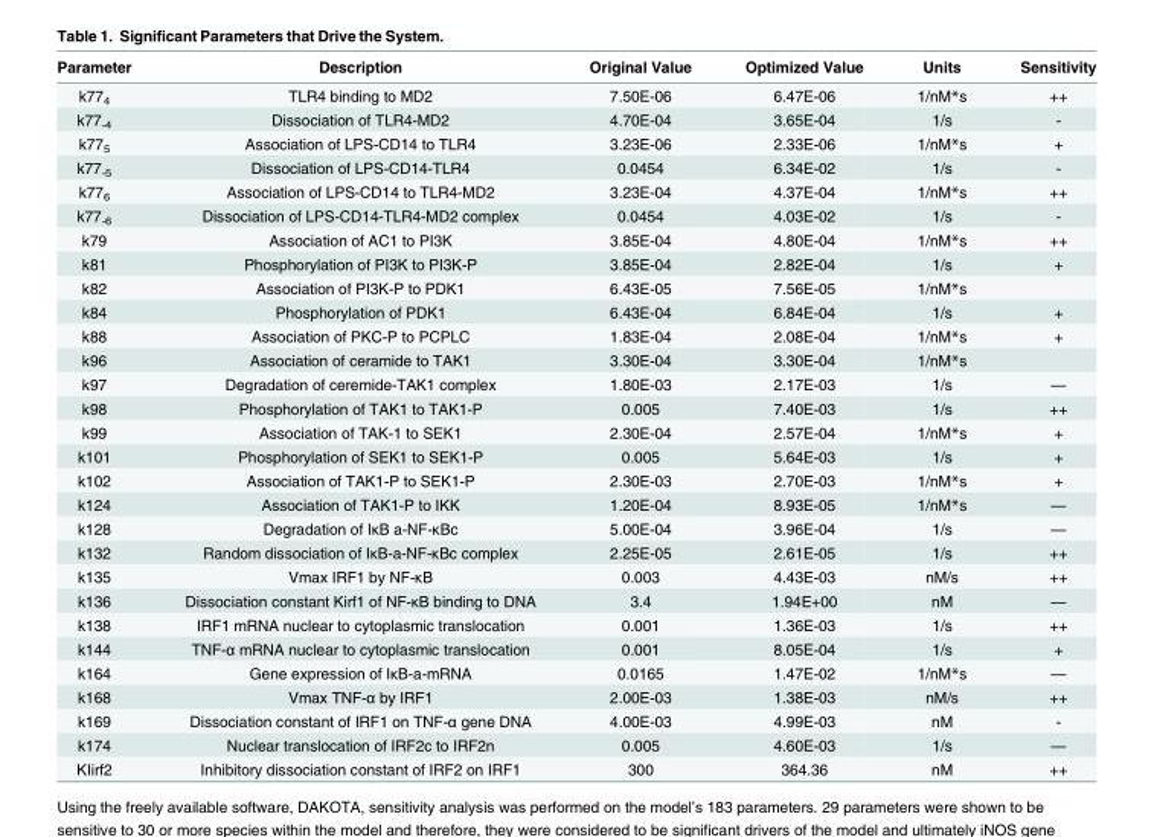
<table><thead><tr><td>Parameter</td><td>Description</td><td>Original Value</td><td>Optimized Value</td><td>Units</td><td>Sensitivity</td></tr></thead><tbody><tr><td>k77<sub>4</sub></td><td>TLR4 binding to MD2</td><td>7.50E-06</td><td>6.47E-06</td><td>1/nM*s</td><td>++</td></tr><tr><td>k77<sub>-4</sub></td><td>Dissociation of TLR4-MD2</td><td>4.70E-04</td><td>3.65E-04</td><td>1/s</td><td>-</td></tr><tr><td>k77<sub>5</sub></td><td>Association of LPS-CD14 to TLR4</td><td>3.23E-06</td><td>2.33E-06</td><td>1/nM*s</td><td>+</td></tr><tr><td>k77<sub>-5</sub></td><td>Dissociation of LPS-CD14-TLR4</td><td>0.0454</td><td>6.34E-02</td><td>1/s</td><td>-</td></tr><tr><td>k77<sub>6</sub></td><td>Association of LPS-CD14 to TLR4-MD2</td><td>3.23E-04</td><td>4.37E-04</td><td>1/nM*s</td><td>++</td></tr><tr><td>k77<sub>-6</sub></td><td>Dissociation of LPS-CD14-TLR4-MD2 complex</td><td>0.0454</td><td>4.03E-02</td><td>1/s</td><td>-</td></tr><tr><td>k79</td><td>Association of AC1 to PI3K</td><td>3.85E-04</td><td>4.80E-04</td><td>1/nM*s</td><td>++</td></tr><tr><td>k81</td><td>Phosphorylation of PI3K to PI3K-P</td><td>3.85E-04</td><td>2.82E-04</td><td>1/s</td><td>+</td></tr><tr><td>k82</td><td>Association of PI3K-P to PDK1</td><td>6.43E-05</td><td>7.56E-05</td><td>1/nM*s</td><td></td></tr><tr><td>k84</td><td>Phosphorylation of PDK1</td><td>6.43E-04</td><td>6.84E-04</td><td>1/s</td><td>+</td></tr><tr><td>k88</td><td>Association of PKC-P to PCPLC</td><td>1.83E-04</td><td>2.08E-04</td><td>1/nM*s</td><td>+</td></tr><tr><td>k96</td><td>Association of ceramide to TAK1</td><td>3.30E-04</td><td>3.30E-04</td><td>1/nM*s</td><td></td></tr><tr><td>k97</td><td>Degradation of ceremide-TAK1 complex</td><td>1.80E-03</td><td>2.17E-03</td><td>1/s</td><td>—</td></tr><tr><td>k98</td><td>Phosphorylation of TAK1 to TAK1-P</td><td>0.005</td><td>7.40E-03</td><td>1/s</td><td>++</td></tr><tr><td>k99</td><td>Association of TAK-1 to SEK1</td><td>2.30E-04</td><td>2.57E-04</td><td>1/nM*s</td><td>+</td></tr><tr><td>k101</td><td>Phosphorylation of SEK1 to SEK1-P</td><td>0.005</td><td>5.64E-03</td><td>1/s</td><td>+</td></tr><tr><td>k102</td><td>Association of TAK1-P to SEK1-P</td><td>2.30E-03</td><td>2.70E-03</td><td>1/nM*s</td><td>+</td></tr><tr><td>k124</td><td>Association of TAK1-P to IKK</td><td>1.20E-04</td><td>8.93E-05</td><td>1/nM*s</td><td>—</td></tr><tr><td>k128</td><td>Degradation of IκB a-NF-κBc</td><td>5.00E-04</td><td>3.96E-04</td><td>1/s</td><td>—</td></tr><tr><td>k132</td><td>Random dissociation of IκB-a-NF-κBc complex</td><td>2.25E-05</td><td>2.61E-05</td><td>1/s</td><td>++</td></tr><tr><td>k135</td><td>Vmax IRF1 by NF-κB</td><td>0.003</td><td>4.43E-03</td><td>nM/s</td><td>++</td></tr><tr><td>k136</td><td>Dissociation constant Kirf1 of NF-κB binding to DNA</td><td>3.4</td><td>1.94E+00</td><td>nM</td><td>—</td></tr><tr><td>k138</td><td>IRF1 mRNA nuclear to cytoplasmic translocation</td><td>0.001</td><td>1.36E-03</td><td>1/s</td><td>++</td></tr><tr><td>k144</td><td>TNF-α mRNA nuclear to cytoplasmic translocation</td><td>0.001</td><td>8.05E-04</td><td>1/s</td><td>+</td></tr><tr><td>k164</td><td>Gene expression of IκB-a-mRNA</td><td>0.0165</td><td>1.47E-02</td><td>1/nM*s</td><td>—</td></tr><tr><td>k168</td><td>Vmax TNF-α by IRF1</td><td>2.00E-03</td><td>1.38E-03</td><td>nM/s</td><td>++</td></tr><tr><td>k169</td><td>Dissociation constant of IRF1 on TNF-α gene DNA</td><td>4.00E-03</td><td>4.99E-03</td><td>nM</td><td>-</td></tr><tr><td>k174</td><td>Nuclear translocation of IRF2c to IRF2n</td><td>0.005</td><td>4.60E-03</td><td>1/s</td><td>—</td></tr><tr><td>KIirf2</td><td>Inhibitory dissociation constant of IRF2 on IRF1</td><td>300</td><td>364.36</td><td>nM</td><td>++</td></tr></tbody></table>